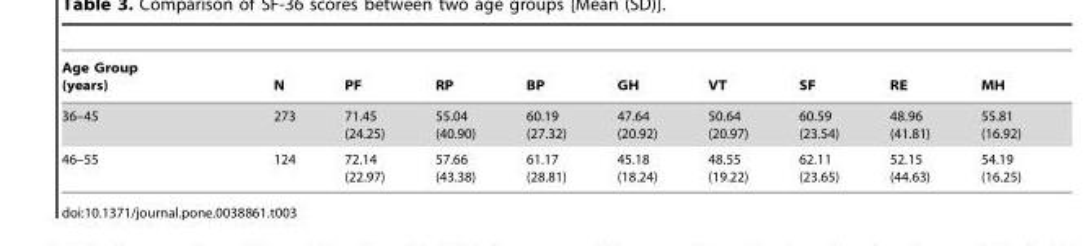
<table><thead><tr><td>Age Group (years)</td><td>N</td><td>PF</td><td>RP</td><td>BP</td><td>GH</td><td>VT</td><td>SF</td><td>RE</td><td>MH</td></tr></thead><tbody><tr><td>36–45</td><td>273</td><td>71.45 (24.25)</td><td>55.04 (40.90)</td><td>60.19 (27.32)</td><td>47.64 (20.92)</td><td>50.64 (20.97)</td><td>60.59 (23.54)</td><td>48.96 (41.81)</td><td>55.81 (16.92)</td></tr><tr><td>46–55</td><td>124</td><td>72.14 (22.97)</td><td>57.66 (43.38)</td><td>61.17 (28.81)</td><td>45.18 (18.24)</td><td>48.55 (19.22)</td><td>62.11 (23.65)</td><td>52.15 (44.63)</td><td>54.19 (16.25)</td></tr></tbody></table>